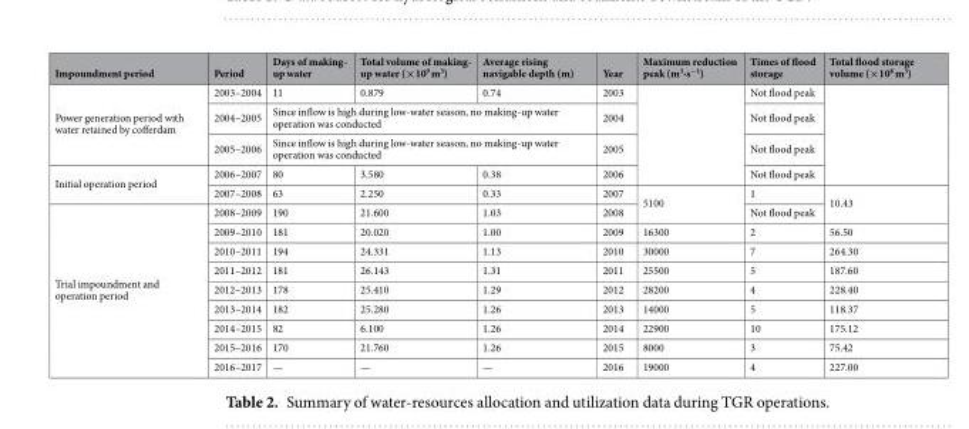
<table><thead><tr><td>Impoundment period</td><td>Period</td><td>Days of making- up water</td><td>Total volume of making- up water (×10<sup>9</sup> m<sup>3</sup>)</td><td>Average rising navigable depth (m)</td><td>Year</td><td>Maximum reduction peak (m<sup>3</sup>·s<sup>−1</sup>)</td><td>Times of flood storage</td><td>Total flood storage volume (×10<sup>8</sup> m<sup>3</sup>)</td></tr></thead><tbody><tr><td rowspan="3">Power generation period with water retained by cofferdam</td><td>2003–2004</td><td>11</td><td>0.879</td><td>0.74</td><td>2003</td><td rowspan="4"></td><td>Not flood peak</td><td rowspan="4"></td></tr><tr><td>2004–2005</td><td colspan="3">Since inflow is high during low-water season, no making-up water operation was conducted</td><td>2004</td><td>Not flood peak</td></tr><tr><td>2005–2006</td><td colspan="3">Since inflow is high during low-water season, no making-up water operation was conducted</td><td>2005</td><td>Not flood peak</td></tr><tr><td rowspan="2">Initial operation period</td><td>2006–2007</td><td>80</td><td>3.580</td><td>0.38</td><td>2006</td><td>Not flood peak</td></tr><tr><td>2007–2008</td><td>63</td><td>2.250</td><td>0.33</td><td>2007</td><td rowspan="2">5100</td><td>1</td><td rowspan="2">10.43</td></tr><tr><td rowspan="9">Trial impoundment and operation period</td><td>2008–2009</td><td>190</td><td>21.600</td><td>1.03</td><td>2008</td><td>Not flood peak</td></tr><tr><td>2009–2010</td><td>181</td><td>20.020</td><td>1.00</td><td>2009</td><td>16300</td><td>2</td><td>56.50</td></tr><tr><td>2010–2011</td><td>194</td><td>24.331</td><td>1.13</td><td>2010</td><td>30000</td><td>7</td><td>264.30</td></tr><tr><td>2011–2012</td><td>181</td><td>26.143</td><td>1.31</td><td>2011</td><td>25500</td><td>5</td><td>187.60</td></tr><tr><td>2012–2013</td><td>178</td><td>25.410</td><td>1.29</td><td>2012</td><td>28200</td><td>4</td><td>228.40</td></tr><tr><td>2013–2014</td><td>182</td><td>25.280</td><td>1.26</td><td>2013</td><td>14000</td><td>5</td><td>118.37</td></tr><tr><td>2014–2015</td><td>82</td><td>6.100</td><td>1.26</td><td>2014</td><td>22900</td><td>10</td><td>175.12</td></tr><tr><td>2015–2016</td><td>170</td><td>21.760</td><td>1.26</td><td>2015</td><td>8000</td><td>3</td><td>75.42</td></tr><tr><td>2016–2017</td><td>—</td><td>—</td><td>—</td><td>2016</td><td>19000</td><td>4</td><td>227.00</td></tr></tbody></table>